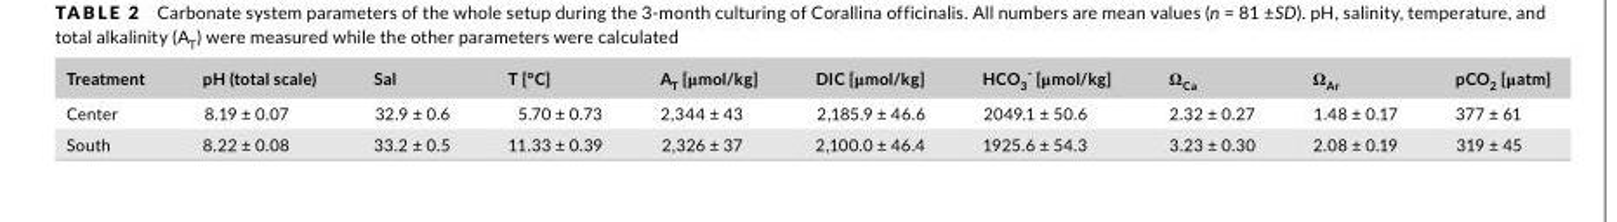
<table><thead><tr><td>Treatment</td><td>pH (total scale)</td><td>Sal</td><td>T [°C]</td><td>A<sub>T</sub> [μmol/kg]</td><td>DIC [μmol/kg]</td><td>HCO<sub>3</sub> <sup>‐</sup> [μmol/kg]</td><td>Ω<sub>Ca</sub></td><td>Ω<sub>Ar</sub></td><td>pCO<sub>2</sub> [μatm]</td></tr></thead><tbody><tr><td>Center</td><td>8.19 ± 0.07</td><td>32.9 ± 0.6</td><td>5.70 ± 0.73</td><td>2,344 ± 43</td><td>2,185.9 ± 46.6</td><td>2049.1 ± 50.6</td><td>2.32 ± 0.27</td><td>1.48 ± 0.17</td><td>377 ± 61</td></tr><tr><td>South</td><td>8.22 ± 0.08</td><td>33.2 ± 0.5</td><td>11.33 ± 0.39</td><td>2,326 ± 37</td><td>2,100.0 ± 46.4</td><td>1925.6 ± 54.3</td><td>3.23 ± 0.30</td><td>2.08 ± 0.19</td><td>319 ± 45</td></tr></tbody></table>